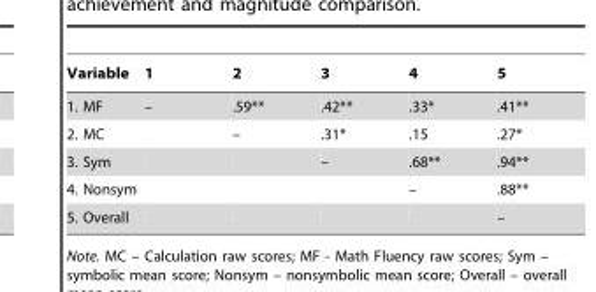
<table><thead><tr><td>Variable</td><td>1</td><td>2</td><td>3</td><td>4</td><td>5</td></tr></thead><tbody><tr><td>1. MF</td><td>–</td><td>.59**</td><td>.42**</td><td>.33*</td><td>.41**</td></tr><tr><td>2. MC</td><td></td><td>–</td><td>.31*</td><td>.15</td><td>.27*</td></tr><tr><td>3. Sym</td><td></td><td></td><td>–</td><td>.68**</td><td>.94**</td></tr><tr><td>4. Nonsym</td><td></td><td></td><td></td><td>–</td><td>.88**</td></tr><tr><td>5. Overall</td><td></td><td></td><td></td><td></td><td>–</td></tr></tbody></table>